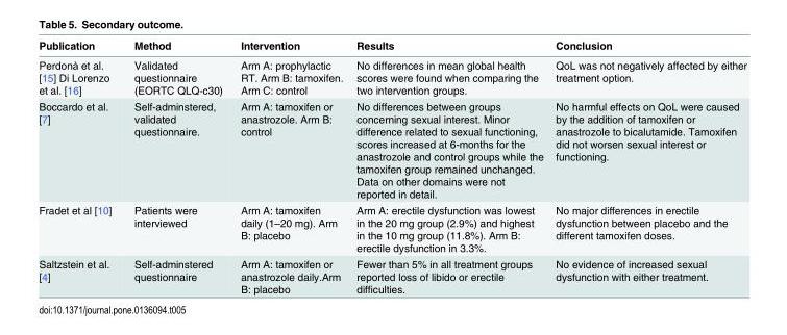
<table><thead><tr><td>Publication</td><td>Method</td><td>Intervention</td><td>Results</td><td>Conclusion</td></tr></thead><tbody><tr><td>Perdonà et al. [15] Di Lorenzo et al. [16]</td><td>Validated questionnaire (EORTC QLQ-c30)</td><td>Arm A: prophylactic RT. Arm B: tamoxifen. Arm C: control</td><td>No differences in mean global health scores were found when comparing the two intervention groups.</td><td>QoL was not negatively affected by either treatment option.</td></tr><tr><td>Boccardo et al. [7]</td><td>Self-adminstered, validated questionnaire.</td><td>Arm A: tamoxifen or anastrozole. Arm B: control</td><td>No differences between groups concerning sexual interest. Minor difference related to sexual functioning, scores increased at 6-months for the anastrozole and control groups while the tamoxifen group remained unchanged. Data on other domains were not reported in detail.</td><td>No harmful effects on QoL were caused by the addition of tamoxifen or anastrozole to bicalutamide. Tamoxifen did not worsen sexual interest or functioning.</td></tr><tr><td>Fradet et al [10]</td><td>Patients were interviewed</td><td>Arm A: tamoxifen daily (1–20 mg). Arm B: placebo</td><td>Arm A: erectile dysfunction was lowest in the 20 mg group (2.9%) and highest in the 10 mg group (11.8%). Arm B: erectile dysfunction in 3.3%.</td><td>No major differences in erectile dysfunction between placebo and the different tamoxifen doses.</td></tr><tr><td>Saltzstein et al. [4]</td><td>Self-adminstered questionnaire</td><td>Arm A: tamoxifen or anastrozole daily.Arm B: placebo</td><td>Fewer than 5% in all treatment groups reported loss of libido or erectile difficulties.</td><td>No evidence of increased sexual dysfunction with either treatment.</td></tr></tbody></table>